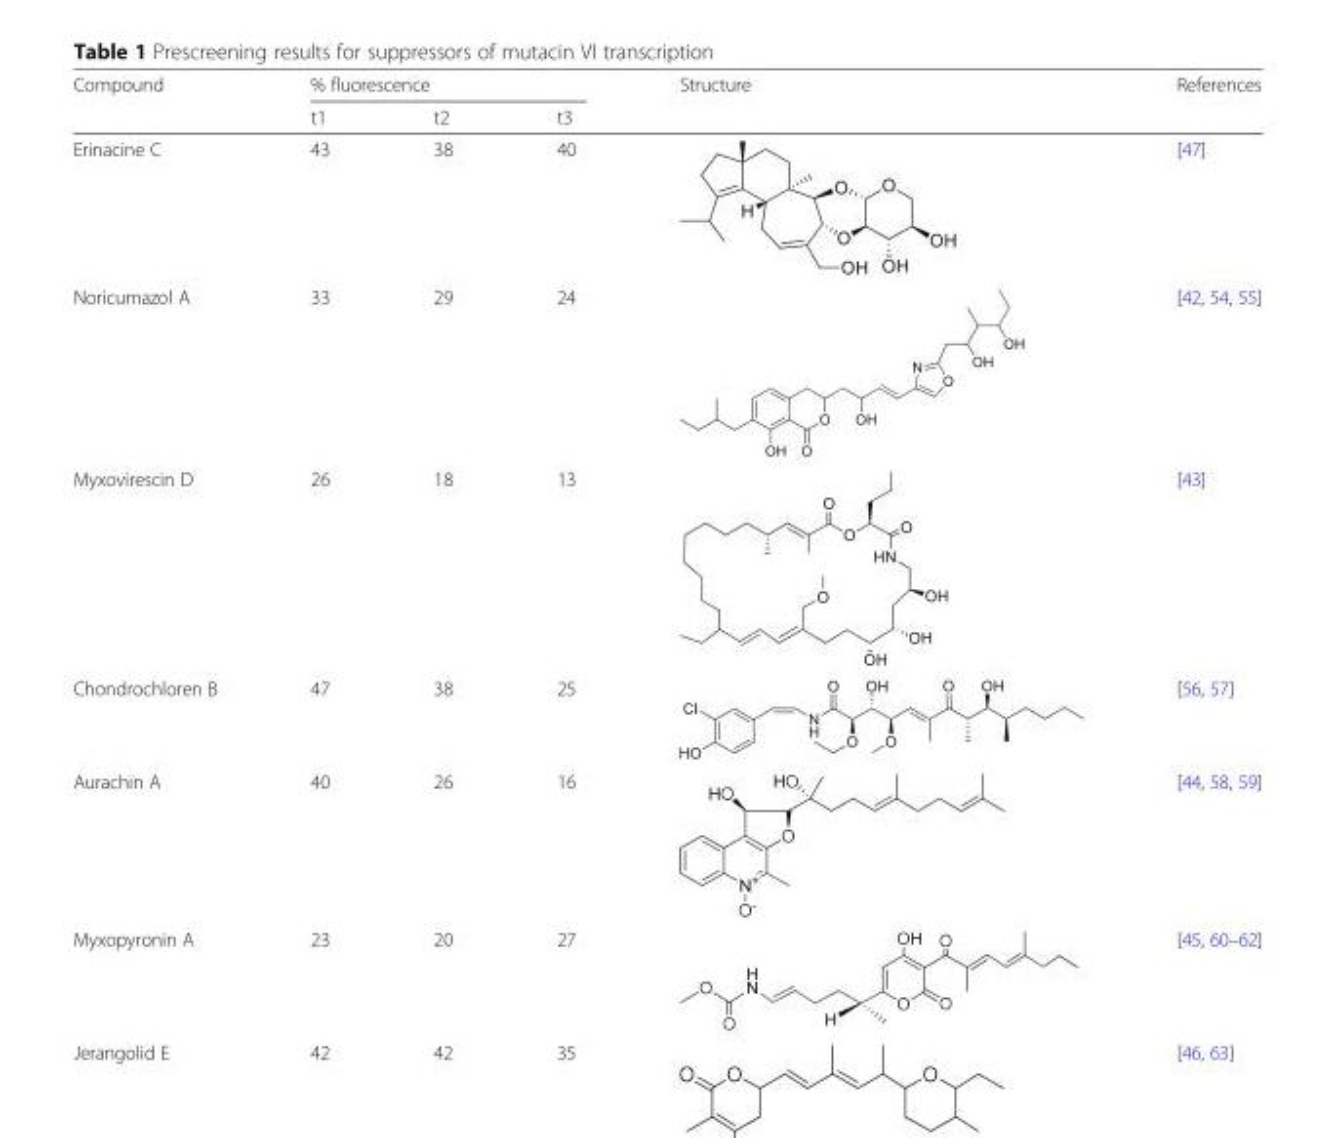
<table><thead><tr><td rowspan="2">Compound</td><td colspan="3">% fluorescence</td><td rowspan="2">Structure</td><td rowspan="2">References</td></tr><tr><td>t1</td><td>t2</td><td>t3</td></tr></thead><tbody><tr><td>Erinacine C</td><td>43</td><td>38</td><td>40</td><td></td><td>[47]</td></tr><tr><td>Noricumazol A</td><td>33</td><td>29</td><td>24</td><td></td><td>[42, 54, 55]</td></tr><tr><td>Myxovirescin D</td><td>26</td><td>18</td><td>13</td><td></td><td>[43]</td></tr><tr><td>Chondrochloren B</td><td>47</td><td>38</td><td>25</td><td></td><td>[56, 57]</td></tr><tr><td>Aurachin A</td><td>40</td><td>26</td><td>16</td><td></td><td>[44, 58, 59]</td></tr><tr><td>Myxopyronin A</td><td>23</td><td>20</td><td>27</td><td></td><td>[45, 60–62]</td></tr><tr><td>Jerangolid E</td><td>42</td><td>42</td><td>35</td><td></td><td>[46, 63]</td></tr></tbody></table>